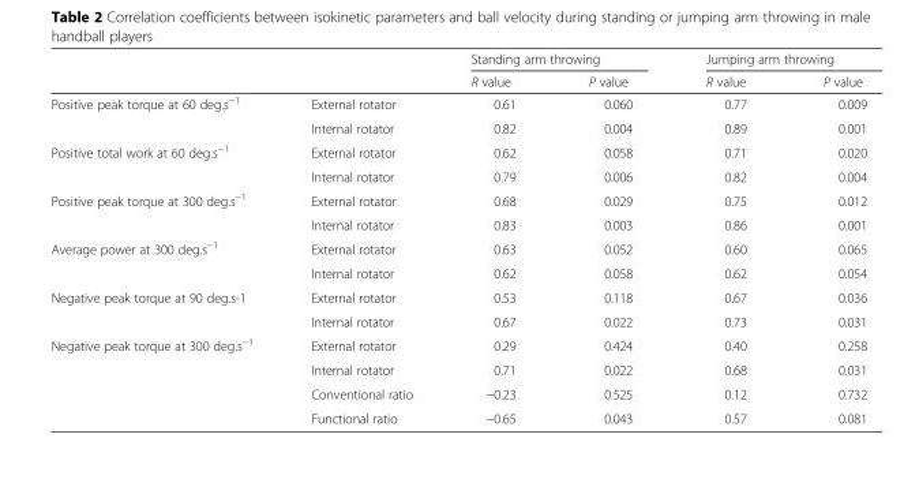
<table><thead><tr><td rowspan="2"></td><td rowspan="2"></td><td colspan="2">Standing arm throwing</td><td colspan="2">Jumping arm throwing</td></tr><tr><td>R value</td><td>P value</td><td>R value</td><td>P value</td></tr></thead><tbody><tr><td rowspan="2">Positive peak torque at 60 deg.s<sup>−1</sup></td><td>External rotator</td><td>0.61</td><td>0.060</td><td>0.77</td><td>0.009</td></tr><tr><td>Internal rotator</td><td>0.82</td><td>0.004</td><td>0.89</td><td>0.001</td></tr><tr><td rowspan="2">Positive total work at 60 deg.s<sup>−1</sup></td><td>External rotator</td><td>0.62</td><td>0.058</td><td>0.71</td><td>0.020</td></tr><tr><td>Internal rotator</td><td>0.79</td><td>0.006</td><td>0.82</td><td>0.004</td></tr><tr><td rowspan="2">Positive peak torque at 300 deg.s<sup>−1</sup></td><td>External rotator</td><td>0.68</td><td>0.029</td><td>0.75</td><td>0.012</td></tr><tr><td>Internal rotator</td><td>0.83</td><td>0.003</td><td>0.86</td><td>0.001</td></tr><tr><td rowspan="2">Average power at 300 deg.s<sup>−1</sup></td><td>External rotator</td><td>0.63</td><td>0.052</td><td>0.60</td><td>0.065</td></tr><tr><td>Internal rotator</td><td>0.62</td><td>0.058</td><td>0.62</td><td>0.054</td></tr><tr><td rowspan="2">Negative peak torque at 90 deg.s-1</td><td>External rotator</td><td>0.53</td><td>0.118</td><td>0.67</td><td>0.036</td></tr><tr><td>Internal rotator</td><td>0.67</td><td>0.022</td><td>0.73</td><td>0.031</td></tr><tr><td rowspan="4">Negative peak torque at 300 deg.s<sup>−1</sup></td><td>External rotator</td><td>0.29</td><td>0.424</td><td>0.40</td><td>0.258</td></tr><tr><td>Internal rotator</td><td>0.71</td><td>0.022</td><td>0.68</td><td>0.031</td></tr><tr><td>Conventional ratio</td><td>−0.23</td><td>0.525</td><td>0.12</td><td>0.732</td></tr><tr><td>Functional ratio</td><td>−0.65</td><td>0.043</td><td>0.57</td><td>0.081</td></tr></tbody></table>